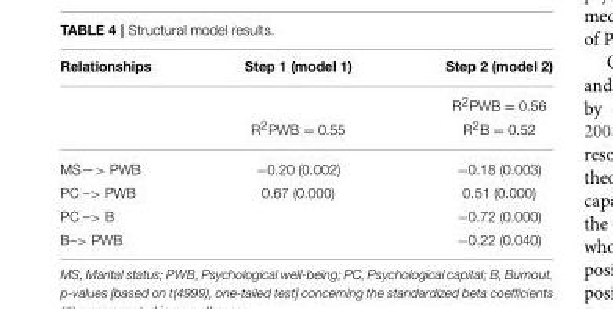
<table><thead><tr><td>Relationships</td><td>Step 1 (model 1)</td><td>Step 2 (model 2)</td></tr></thead><tbody><tr><td></td><td></td><td>R<sup>2</sup>PWB = 0.56</td></tr><tr><td></td><td>R<sup>2</sup>PWB = 0.55</td><td>R<sup>2</sup>B = 0.52</td></tr><tr><td>MS—&gt; PWB</td><td>−0.20 (0.002)</td><td>−0.18 (0.003)</td></tr><tr><td>PC –&gt; PWB</td><td>0.67 (0.000)</td><td>0.51 (0.000)</td></tr><tr><td>PC –&gt; B</td><td></td><td>−0.72 (0.000)</td></tr><tr><td>B–&gt; PWB</td><td></td><td>−0.22 (0.040)</td></tr></tbody></table>